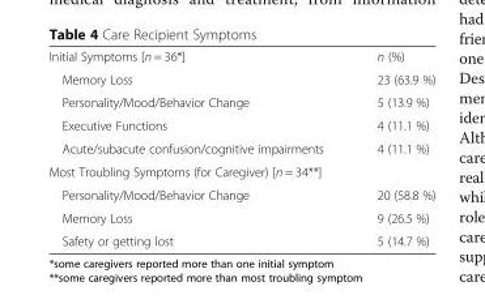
<table><tbody><tr><td>Initial Symptoms [n = 36*]</td><td>n (%)</td></tr><tr><td>Memory Loss</td><td>23 (63.9 %)</td></tr><tr><td>Personality/Mood/Behavior Change</td><td>5 (13.9 %)</td></tr><tr><td>Executive Functions</td><td>4 (11.1 %)</td></tr><tr><td>Acute/subacute confusion/cognitive impairments</td><td>4 (11.1 %)</td></tr><tr><td colspan="2">Most Troubling Symptoms (for Caregiver) [n = 34**]</td></tr><tr><td>Personality/Mood/Behavior Change</td><td>20 (58.8 %)</td></tr><tr><td>Memory Loss</td><td>9 (26.5 %)</td></tr><tr><td>Safety or getting lost</td><td>5 (14.7 %)</td></tr></tbody></table>